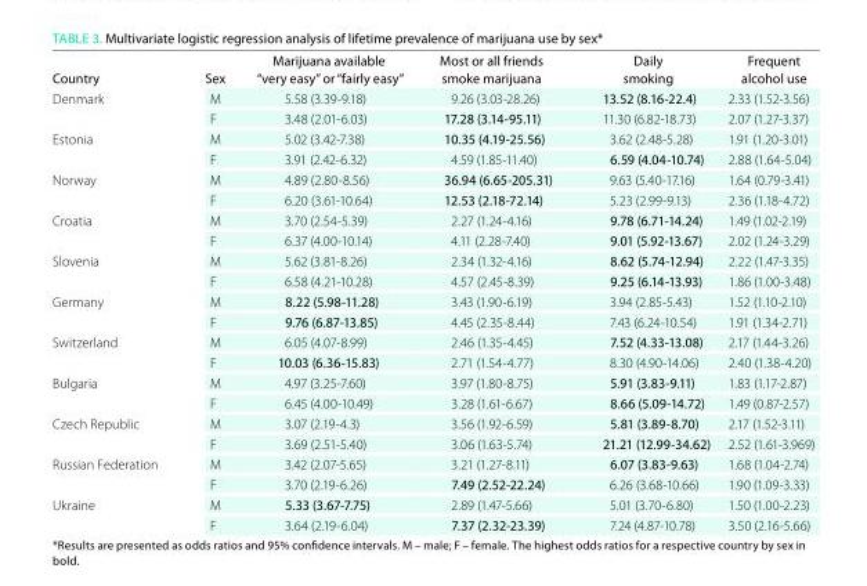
<table><thead><tr><td>Country</td><td>sex</td><td>Marijuana available “very easy” or “fairly easy”</td><td>Most or all friends smoke marijuana</td><td>daily smoking</td><td>Frequent alcohol use</td></tr></thead><tbody><tr><td rowspan="2">Denmark</td><td>M</td><td>5.58 (3.39-9.18)</td><td>9.26 (3.03-28.26)</td><td>13.52 (8.16-22.4)</td><td>2.33 (1.52-3.56)</td></tr><tr><td>F</td><td>3.48 (2.01-6.03)</td><td>17.28 (3.14-95.11)</td><td>11.30 (6.82-18.73)</td><td>2.07 (1.27-3.37)</td></tr><tr><td rowspan="2">Estonia</td><td>M</td><td>5.02 (3.42-7.38)</td><td>10.35 (4.19-25.56)</td><td>3.62 (2.48-5.28)</td><td>1.91 (1.20-3.01)</td></tr><tr><td>F</td><td>3.91 (2.42-6.32)</td><td>4.59 (1.85-11.40)</td><td>6.59 (4.04-10.74)</td><td>2.88 (1.64-5.04)</td></tr><tr><td rowspan="2">Norway</td><td>M</td><td>4.89 (2.80-8.56)</td><td>36.94 (6.65-205.31)</td><td>9.63 (5.40-17.16)</td><td>1.64 (0.79-3.41)</td></tr><tr><td>F</td><td>6.20 (3.61-10.64)</td><td>12.53 (2.18-72.14)</td><td>5.23 (2.99-9.13)</td><td>2.36 (1.18-4.72)</td></tr><tr><td rowspan="2">Croatia</td><td>M</td><td>3.70 (2.54-5.39)</td><td>2.27 (1.24-4.16)</td><td>9.78 (6.71-14.24)</td><td>1.49 (1.02-2.19)</td></tr><tr><td>F</td><td>6.37 (4.00-10.14)</td><td>4.11 (2.28-7.40)</td><td>9.01 (5.92-13.67)</td><td>2.02 (1.24-3.29)</td></tr><tr><td rowspan="2">Slovenia</td><td>M</td><td>5.62 (3.81-8.26)</td><td>2.34 (1.32-4.16)</td><td>8.62 (5.74-12.94)</td><td>2.22 (1.47-3.35)</td></tr><tr><td>F</td><td>6.58 (4.21-10.28)</td><td>4.57 (2.45-8.39)</td><td>9.25 (6.14-13.93)</td><td>1.86 (1.00-3.48)</td></tr><tr><td rowspan="2">Germany</td><td>M</td><td>8.22 (5.98-11.28)</td><td>3.43 (1.90-6.19)</td><td>3.94 (2.85-5.43)</td><td>1.52 (1.10-2.10)</td></tr><tr><td>F</td><td>9.76 (6.87-13.85)</td><td>4.45 (2.35-8.44)</td><td>7.43 (6.24-10.54)</td><td>1.91 (1.34-2.71)</td></tr><tr><td rowspan="2">Switzerland</td><td>M</td><td>6.05 (4.07-8.99)</td><td>2.46 (1.35-4.45)</td><td>7.52 (4.33-13.08)</td><td>2.17 (1.44-3.26)</td></tr><tr><td>F</td><td>10.03 (6.36-15.83)</td><td>2.71 (1.54-4.77)</td><td>8.30 (4.90-14.06)</td><td>2.40 (1.38-4.20)</td></tr><tr><td rowspan="2">Bulgaria</td><td>M</td><td>4.97 (3.25-7.60)</td><td>3.97 (1.80-8.75)</td><td>5.91 (3.83-9.11)</td><td>1.83 (1.17-2.87)</td></tr><tr><td>F</td><td>6.45 (4.00-10.49)</td><td>3.28 (1.61-6.67)</td><td>8.66 (5.09-14.72)</td><td>1.49 (0.87-2.57)</td></tr><tr><td rowspan="2">Czech Republic</td><td>M</td><td>3.07 (2.19-4.3)</td><td>3.56 (1.92-6.59)</td><td>5.81 (3.89-8.70)</td><td>2.17 (1.52-3.11)</td></tr><tr><td>F</td><td>3.69 (2.51-5.40)</td><td>3.06 (1.63-5.74)</td><td>21.21 (12.99-34.62)</td><td>2.52 (1.61-3.969)</td></tr><tr><td rowspan="2">Russian Federation</td><td>M</td><td>3.42 (2.07-5.65)</td><td>3.21 (1.27-8.11)</td><td>6.07 (3.83-9.63)</td><td>1.68 (1.04-2.74)</td></tr><tr><td>F</td><td>3.70 (2.19-6.26)</td><td>7.49 (2.52-22.24)</td><td>6.26 (3.68-10.66)</td><td>1.90 (1.09-3.33)</td></tr><tr><td rowspan="2">Ukraine</td><td>M</td><td>5.33 (3.67-7.75)</td><td>2.89 (1.47-5.66)</td><td>5.01 (3.70-6.80)</td><td>1.50 (1.00-2.23)</td></tr><tr><td>F</td><td>3.64 (2.19-6.04)</td><td>7.37 (2.32-23.39)</td><td>7.24 (4.87-10.78)</td><td>3.50 (2.16-5.66)</td></tr></tbody></table>